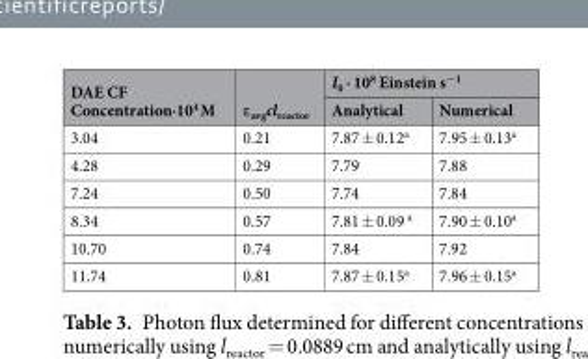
<table><thead><tr><td rowspan="2">DAE CF Concentration·10<sup>4</sup> M</td><td rowspan="2">ε<sub>avg</sub>cl<sub>reactor</sub></td><td colspan="2">I<sub>0</sub> · 10<sup>8</sup> Einstein s<sup>−1</sup></td></tr><tr><td>Analytical</td><td>Numerical</td></tr></thead><tbody><tr><td>3.04</td><td>0.21</td><td>7.87 ± 0.12<sup>a</sup></td><td>7.95 ± 0.13<sup>a</sup></td></tr><tr><td>4.28</td><td>0.29</td><td>7.79</td><td>7.88</td></tr><tr><td>7.24</td><td>0.50</td><td>7.74</td><td>7.84</td></tr><tr><td>8.34</td><td>0.57</td><td>7.81 ± 0.09 <sup>a</sup></td><td>7.90 ± 0.10<sup>a</sup></td></tr><tr><td>10.70</td><td>0.74</td><td>7.84</td><td>7.92</td></tr><tr><td>11.74</td><td>0.81</td><td>7.87 ± 0.15<sup>a</sup></td><td>7.96 ± 0.15<sup>a</sup></td></tr></tbody></table>